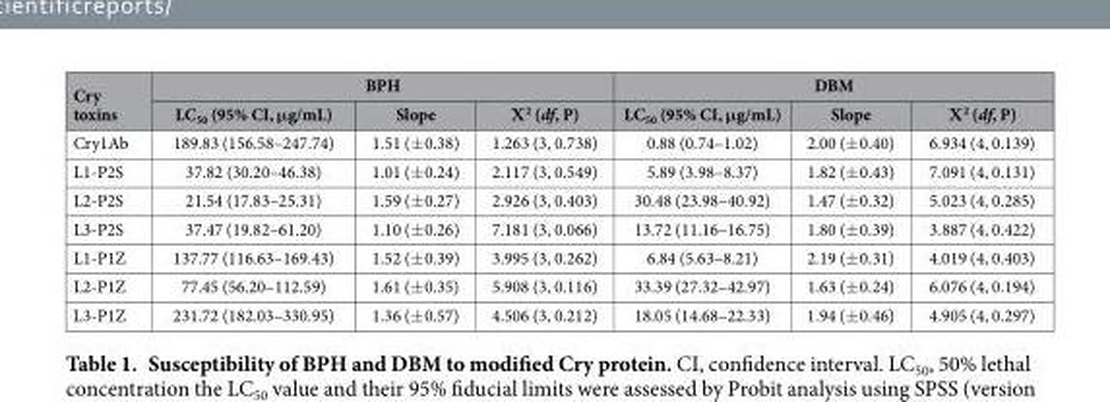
<table><thead><tr><td rowspan="2">Cry toxins</td><td colspan="3">BPH</td><td colspan="3">DBM</td></tr><tr><td>LC<sub>50</sub> (95% CI, μg/mL)</td><td>Slope</td><td>Χ<sup>2</sup> (df, P)</td><td>LC<sub>50</sub> (95% CI, μg/mL)</td><td>Slope</td><td>Χ<sup>2</sup> (df, P)</td></tr></thead><tbody><tr><td>Cry1Ab</td><td>189.83 (156.58–247.74)</td><td>1.51 (± 0.38)</td><td>1.263 (3, 0.738)</td><td>0.88 (0.74–1.02)</td><td>2.00 (± 0.40)</td><td>6.934 (4, 0.139)</td></tr><tr><td>L1-P2S</td><td>37.82 (30.20–46.38)</td><td>1.01 (± 0.24)</td><td>2.117 (3, 0.549)</td><td>5.89 (3.98–8.37)</td><td>1.82 (± 0.43)</td><td>7.091 (4, 0.131)</td></tr><tr><td>L2-P2S</td><td>21.54 (17.83–25.31)</td><td>1.59 (± 0.27)</td><td>2.926 (3, 0.403)</td><td>30.48 (23.98–40.92)</td><td>1.47 (± 0.32)</td><td>5.023 (4, 0.285)</td></tr><tr><td>L3-P2S</td><td>37.47 (19.82–61.20)</td><td>1.10 (± 0.26)</td><td>7.181 (3, 0.066)</td><td>13.72 (11.16–16.75)</td><td>1.80 (± 0.39)</td><td>3.887 (4, 0.422)</td></tr><tr><td>L1-P1Z</td><td>137.77 (116.63–169.43)</td><td>1.52 (± 0.39)</td><td>3.995 (3, 0.262)</td><td>6.84 (5.63–8.21)</td><td>2.19 (± 0.31)</td><td>4.019 (4, 0.403)</td></tr><tr><td>L2-P1Z</td><td>77.45 (56.20–112.59)</td><td>1.61 (± 0.35)</td><td>5.908 (3, 0.116)</td><td>33.39 (27.32–42.97)</td><td>1.63 (± 0.24)</td><td>6.076 (4, 0.194)</td></tr><tr><td>L3-P1Z</td><td>231.72 (182.03–330.95)</td><td>1.36 (± 0.57)</td><td>4.506 (3, 0.212)</td><td>18.05 (14.68–22.33)</td><td>1.94 (± 0.46)</td><td>4.905 (4, 0.297)</td></tr></tbody></table>